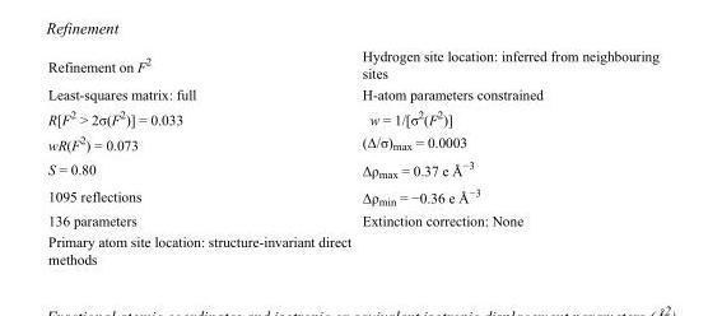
<table><tbody><tr><td>Refinement on F<sup>2</sup></td><td>Hydrogen site location: inferred from neighbouring sites</td></tr><tr><td>Least-squares matrix: full</td><td>H-atom parameters constrained</td></tr><tr><td>R[F<sup>2</sup> &gt; 2σ(F<sup>2</sup>)] = 0.033</td><td>w = 1/[σ<sup>2</sup>(F<sup>2</sup>)]</td></tr><tr><td>wR(F<sup>2</sup>) = 0.073</td><td>(Δ/σ)<sub>max</sub> = 0.0003</td></tr><tr><td>S = 0.80</td><td>Δρ<sub>max</sub> = 0.37 e Å<sup>−3</sup></td></tr><tr><td>1095 reflections</td><td>Δρ<sub>min</sub> = −0.36 e Å<sup>−3</sup></td></tr><tr><td>136 parameters</td><td>Extinction correction: None</td></tr><tr><td>Primary atom site location: structure-invariant direct methods</td><td></td></tr></tbody></table>